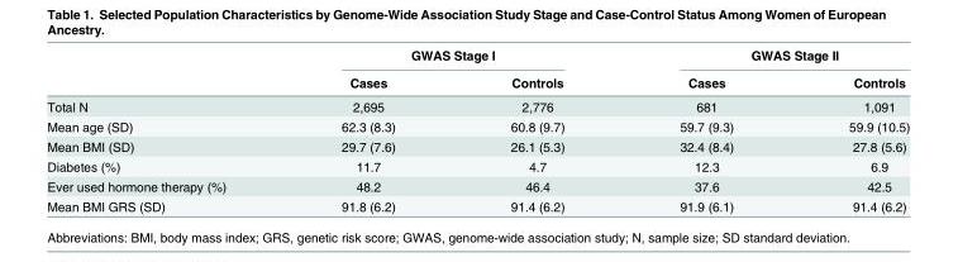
<table><thead><tr><td rowspan="2"></td><td colspan="2">GWAS Stage I</td><td colspan="2">GWAS Stage II</td></tr><tr><td>Cases</td><td>Controls</td><td>Cases</td><td>Controls</td></tr></thead><tbody><tr><td>Total N</td><td>2,695</td><td>2,776</td><td>681</td><td>1,091</td></tr><tr><td>Mean age (SD)</td><td>62.3 (8.3)</td><td>60.8 (9.7)</td><td>59.7 (9.3)</td><td>59.9 (10.5)</td></tr><tr><td>Mean BMI (SD)</td><td>29.7 (7.6)</td><td>26.1 (5.3)</td><td>32.4 (8.4)</td><td>27.8 (5.6)</td></tr><tr><td>Diabetes (%)</td><td>11.7</td><td>4.7</td><td>12.3</td><td>6.9</td></tr><tr><td>Ever used hormone therapy (%)</td><td>48.2</td><td>46.4</td><td>37.6</td><td>42.5</td></tr><tr><td>Mean BMI GRS (SD)</td><td>91.8 (6.2)</td><td>91.4 (6.2)</td><td>91.9 (6.1)</td><td>91.4 (6.2)</td></tr></tbody></table>